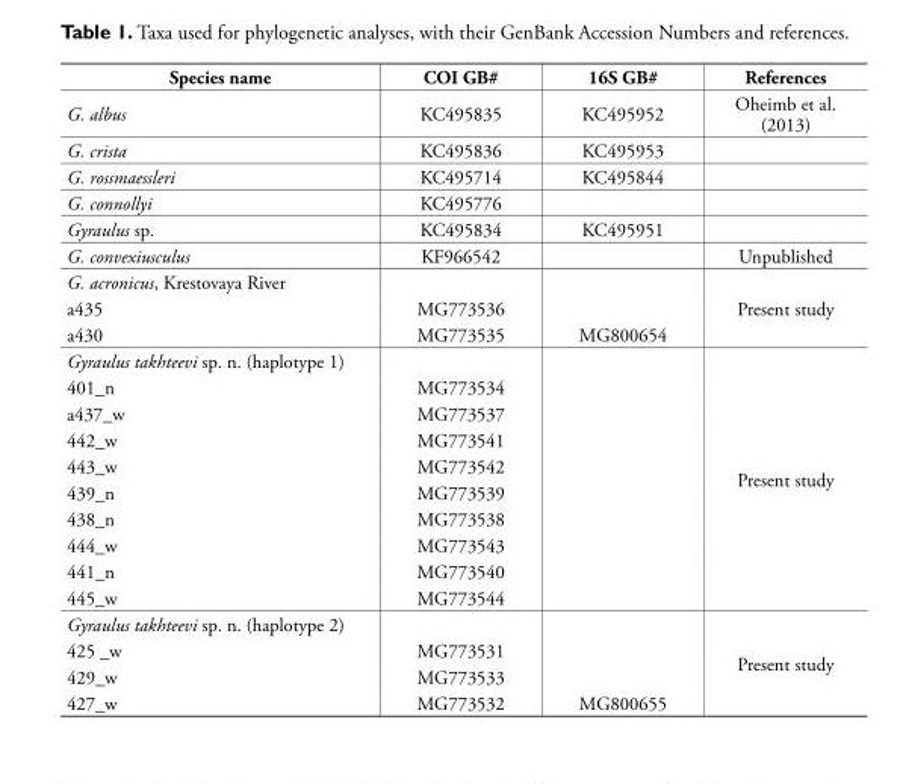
<table><thead><tr><td>Species name</td><td>COI GB#</td><td>16S GB#</td><td>References</td></tr></thead><tbody><tr><td>G. albus</td><td>KC495835</td><td>KC495952</td><td>Oheimb et al. (2013)</td></tr><tr><td>G. crista</td><td>KC495836</td><td>KC495953</td><td></td></tr><tr><td>G. rossmaessleri</td><td>KC495714</td><td>KC495844</td><td></td></tr><tr><td>G. connollyi</td><td>KC495776</td><td></td><td></td></tr><tr><td>Gyraulus sp.</td><td>KC495834</td><td>KC495951</td><td></td></tr><tr><td>G. convexiusculus</td><td>KF966542</td><td></td><td>Unpublished</td></tr><tr><td colspan="3">G. acronicus, Krestovaya River</td><td rowspan="3">Present study</td></tr><tr><td>a435</td><td>MG773536</td><td></td></tr><tr><td>a430</td><td>MG773535</td><td>MG800654</td></tr><tr><td colspan="3">Gyraulus takhteevi sp. n. (haplotype 1)</td><td rowspan="10">Present study</td></tr><tr><td>401_n</td><td>MG773534</td><td></td></tr><tr><td>a437_w</td><td>MG773537</td><td></td></tr><tr><td>442_w</td><td>MG773541</td><td></td></tr><tr><td>443_w</td><td>MG773542</td><td></td></tr><tr><td>439_n</td><td>MG773539</td><td></td></tr><tr><td>438_n</td><td>MG773538</td><td></td></tr><tr><td>444_w</td><td>MG773543</td><td></td></tr><tr><td>441_n</td><td>MG773540</td><td></td></tr><tr><td>445_w</td><td>MG773544</td><td></td></tr><tr><td colspan="3">Gyraulus takhteevi sp. n. (haplotype 2)</td><td rowspan="4">Present study</td></tr><tr><td>425 _w</td><td>MG773531</td><td></td></tr><tr><td>429_w</td><td>MG773533</td><td></td></tr><tr><td>427_w</td><td>MG773532</td><td>MG800655</td></tr></tbody></table>